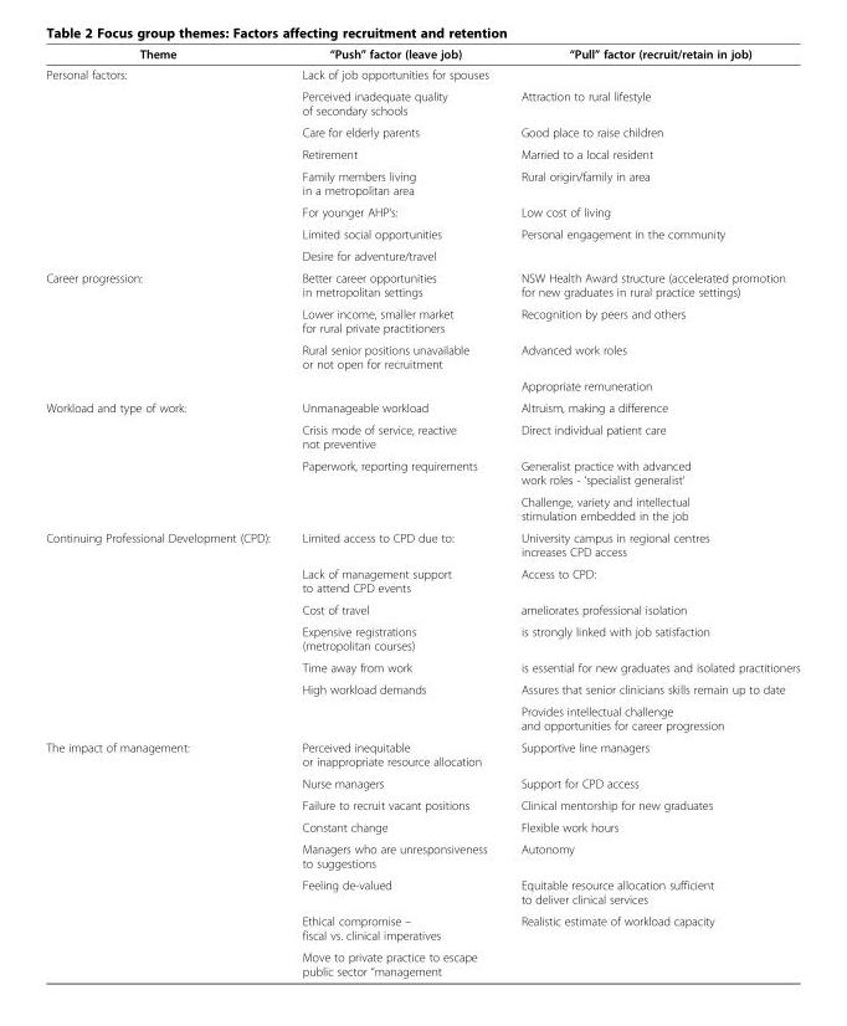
<table><thead><tr><td>Theme</td><td>“Push” factor (leave job)</td><td>“Pull” factor (recruit/retain in job)</td></tr></thead><tbody><tr><td rowspan="8">Personal factors:</td><td>Lack of job opportunities for spouses</td><td></td></tr><tr><td>Perceived inadequate quality of secondary schools</td><td>Attraction to rural lifestyle</td></tr><tr><td>Care for elderly parents</td><td>Good place to raise children</td></tr><tr><td>Retirement</td><td>Married to a local resident</td></tr><tr><td>Family members living in a metropolitan area</td><td>Rural origin/family in area</td></tr><tr><td>For younger AHP’s:</td><td>Low cost of living</td></tr><tr><td>Limited social opportunities</td><td>Personal engagement in the community</td></tr><tr><td>Desire for adventure/travel</td><td></td></tr><tr><td rowspan="4">Career progression:</td><td>Better career opportunities in metropolitan settings</td><td>NSW Health Award structure (accelerated promotion for new graduates in rural practice settings)</td></tr><tr><td>Lower income, smaller market for rural private practitioners</td><td>Recognition by peers and others</td></tr><tr><td>Rural senior positions unavailable or not open for recruitment</td><td>Advanced work roles</td></tr><tr><td></td><td>Appropriate remuneration</td></tr><tr><td rowspan="4">Workload and type of work:</td><td>Unmanageable workload</td><td>Altruism, making a difference</td></tr><tr><td>Crisis mode of service, reactive not preventive</td><td>Direct individual patient care</td></tr><tr><td>Paperwork, reporting requirements</td><td>Generalist practice with advanced work roles - ‘specialist generalist’</td></tr><tr><td></td><td>Challenge, variety and intellectual stimulation embedded in the job</td></tr><tr><td rowspan="7">Continuing Professional Development (CPD):</td><td>Limited access to CPD due to:</td><td>University campus in regional centres increases CPD access</td></tr><tr><td>Lack of management support to attend CPD events</td><td>Access to CPD:</td></tr><tr><td>Cost of travel</td><td>ameliorates professional isolation</td></tr><tr><td>Expensive registrations (metropolitan courses)</td><td>is strongly linked with job satisfaction</td></tr><tr><td>Time away from work</td><td>is essential for new graduates and isolated practitioners</td></tr><tr><td>High workload demands</td><td>Assures that senior clinicians skills remain up to date</td></tr><tr><td></td><td>Provides intellectual challenge and opportunities for career progression</td></tr><tr><td rowspan="8">The impact of management:</td><td>Perceived inequitable or inappropriate resource allocation</td><td>Supportive line managers</td></tr><tr><td>Nurse managers</td><td>Support for CPD access</td></tr><tr><td>Failure to recruit vacant positions</td><td>Clinical mentorship for new graduates</td></tr><tr><td>Constant change</td><td>Flexible work hours</td></tr><tr><td>Managers who are unresponsiveness to suggestions</td><td>Autonomy</td></tr><tr><td>Feeling de-valued</td><td>Equitable resource allocation sufficient to deliver clinical services</td></tr><tr><td>Ethical compromise – fiscal vs. clinical imperatives</td><td>Realistic estimate of workload capacity</td></tr><tr><td>Move to private practice to escape public sector “management</td><td></td></tr></tbody></table>